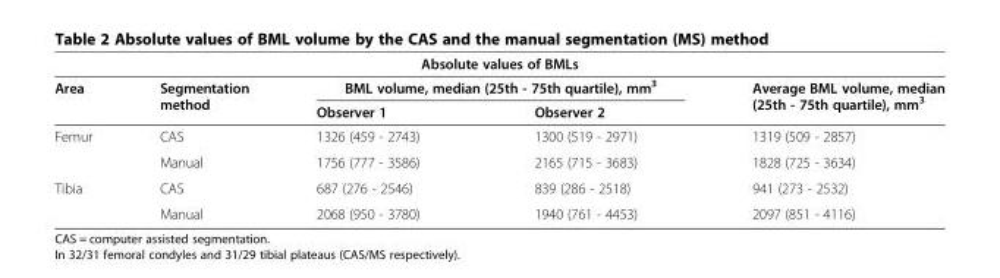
<table><thead><tr><td colspan="5">Absolute values of BMLs</td></tr><tr><td rowspan="2">Area</td><td rowspan="2">Segmentation method</td><td colspan="2">BML volume, median (25th - 75th quartile), mm<sup>3</sup></td><td rowspan="2">Average BML volume, median (25th - 75th quartile), mm<sup>3</sup></td></tr><tr><td>Observer 1</td><td>Observer 2</td></tr></thead><tbody><tr><td rowspan="2">Femur</td><td>CAS</td><td>1326 (459 - 2743)</td><td>1300 (519 - 2971)</td><td>1319 (509 - 2857)</td></tr><tr><td>Manual</td><td>1756 (777 - 3586)</td><td>2165 (715 - 3683)</td><td>1828 (725 - 3634)</td></tr><tr><td rowspan="2">Tibia</td><td>CAS</td><td>687 (276 - 2546)</td><td>839 (286 - 2518)</td><td>941 (273 - 2532)</td></tr><tr><td>Manual</td><td>2068 (950 - 3780)</td><td>1940 (761 - 4453)</td><td>2097 (851 - 4116)</td></tr></tbody></table>